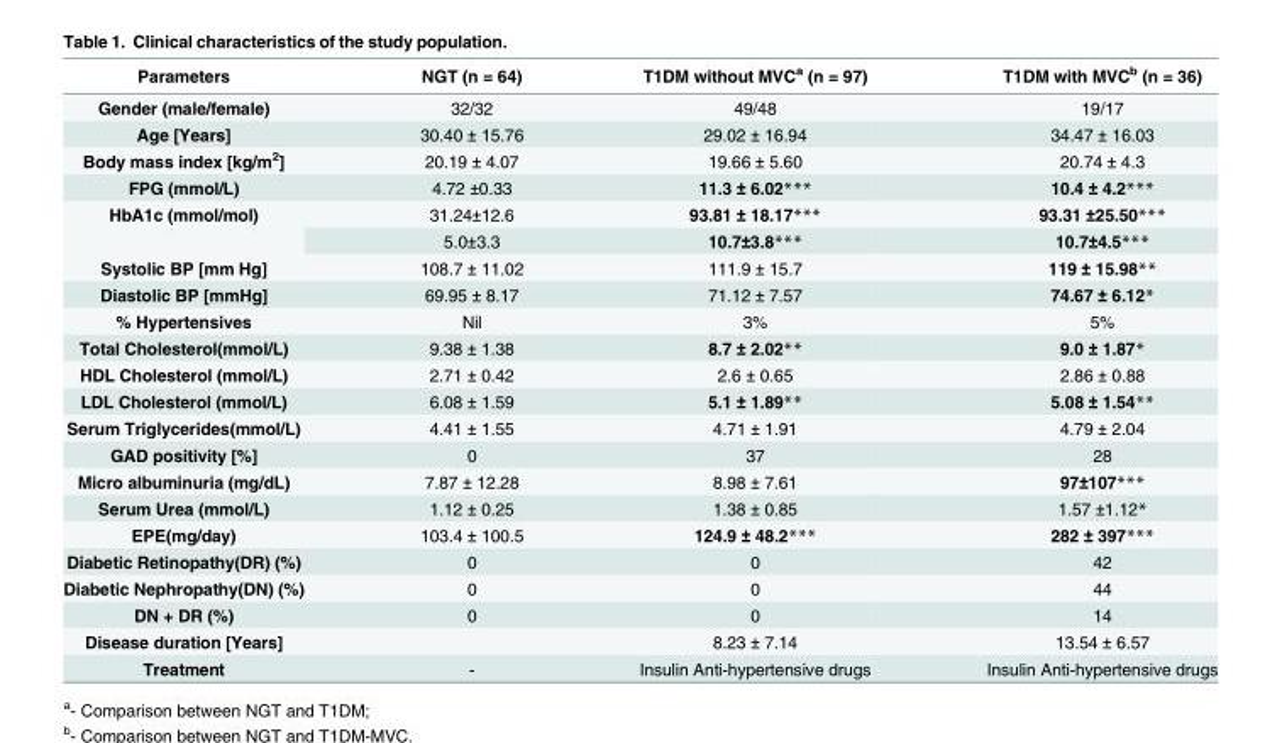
<table><thead><tr><td>Parameters</td><td>NGT (n = 64)</td><td>T1DM without MVC<sup>a</sup> (n = 97)</td><td>T1DM with MVC<sup>b</sup> (n = 36)</td></tr></thead><tbody><tr><td>Gender (male/female)</td><td>32/32</td><td>49/48</td><td>19/17</td></tr><tr><td>Age [Years]</td><td>30.40 ± 15.76</td><td>29.02 ± 16.94</td><td>34.47 ± 16.03</td></tr><tr><td>Body mass index [kg/m<sup>2</sup>]</td><td>20.19 ± 4.07</td><td>19.66 ± 5.60</td><td>20.74 ± 4.3</td></tr><tr><td>FPG (mmol/L)</td><td>4.72 ±0.33</td><td>11.3 ± 6.02***</td><td>10.4 ± 4.2***</td></tr><tr><td rowspan="2">HbA1c (mmol/mol)</td><td>31.24±12.6</td><td>93.81 ± 18.17***</td><td>93.31 ±25.50***</td></tr><tr><td>5.0±3.3</td><td>10.7±3.8***</td><td>10.7±4.5***</td></tr><tr><td>Systolic BP [mm Hg]</td><td>108.7 ± 11.02</td><td>111.9 ± 15.7</td><td>119 ± 15.98**</td></tr><tr><td>Diastolic BP [mmHg]</td><td>69.95 ± 8.17</td><td>71.12 ± 7.57</td><td>74.67 ± 6.12*</td></tr><tr><td>% Hypertensives</td><td>Nil</td><td>3%</td><td>5%</td></tr><tr><td>Total Cholesterol(mmol/L)</td><td>9.38 ± 1.38</td><td>8.7 ± 2.02**</td><td>9.0 ± 1.87*</td></tr><tr><td>HDL Cholesterol (mmol/L)</td><td>2.71 ± 0.42</td><td>2.6 ± 0.65</td><td>2.86 ± 0.88</td></tr><tr><td>LDL Cholesterol (mmol/L)</td><td>6.08 ± 1.59</td><td>5.1 ± 1.89**</td><td>5.08 ± 1.54**</td></tr><tr><td>Serum Triglycerides(mmol/L)</td><td>4.41 ± 1.55</td><td>4.71 ± 1.91</td><td>4.79 ± 2.04</td></tr><tr><td>GAD positivity [%]</td><td>0</td><td>37</td><td>28</td></tr><tr><td>Micro albuminuria (mg/dL)</td><td>7.87 ± 12.28</td><td>8.98 ± 7.61</td><td>97±107***</td></tr><tr><td>Serum Urea (mmol/L)</td><td>1.12 ± 0.25</td><td>1.38 ± 0.85</td><td>1.57 ±1.12*</td></tr><tr><td>EPE(mg/day)</td><td>103.4 ± 100.5</td><td>124.9 ± 48.2***</td><td>282 ± 397***</td></tr><tr><td>Diabetic Retinopathy(DR) (%)</td><td>0</td><td>0</td><td>42</td></tr><tr><td>Diabetic Nephropathy(DN) (%)</td><td>0</td><td>0</td><td>44</td></tr><tr><td>DN + DR (%)</td><td>0</td><td>0</td><td>14</td></tr><tr><td>Disease duration [Years]</td><td></td><td>8.23 ± 7.14</td><td>13.54 ± 6.57</td></tr><tr><td>Treatment</td><td>-</td><td>Insulin Anti-hypertensive drugs</td><td>Insulin Anti-hypertensive drugs</td></tr></tbody></table>